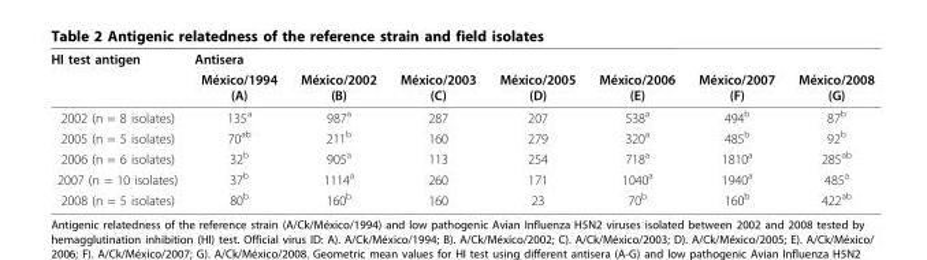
<table><thead><tr><td rowspan="2">HI test antigen</td><td rowspan="2">Antisera México/1994 (A)</td><td rowspan="2">México/2002 (B)</td><td rowspan="2">México/2003 (C)</td><td rowspan="2">México/2005 (D)</td><td rowspan="2">México/2006 (E)</td><td rowspan="2">México/2007 (F)</td><td rowspan="2">México/2008 (G)</td></tr><tr></tr></thead><tbody><tr><td>2002 (n = 8 isolates)</td><td>135<sup>a</sup></td><td>987<sup>a</sup></td><td>287</td><td>207</td><td>538<sup>a</sup></td><td>494<sup>b</sup></td><td>87<sup>b</sup></td></tr><tr><td>2005 (n = 5 isolates)</td><td>70<sup>ab</sup></td><td>211<sup>b</sup></td><td>160</td><td>279</td><td>320<sup>a</sup></td><td>485<sup>b</sup></td><td>92<sup>b</sup></td></tr><tr><td>2006 (n = 6 isolates)</td><td>32<sup>b</sup></td><td>905<sup>a</sup></td><td>113</td><td>254</td><td>718<sup>a</sup></td><td>1810<sup>a</sup></td><td>285<sup>ab</sup></td></tr><tr><td>2007 (n = 10 isolates)</td><td>37<sup>b</sup></td><td>1114<sup>a</sup></td><td>260</td><td>171</td><td>1040<sup>a</sup></td><td>1940<sup>a</sup></td><td>485<sup>a</sup></td></tr><tr><td>2008 (n = 5 isolates)</td><td>80<sup>b</sup></td><td>160<sup>b</sup></td><td>160</td><td>23</td><td>70<sup>b</sup></td><td>160<sup>b</sup></td><td>422<sup>ab</sup></td></tr></tbody></table>